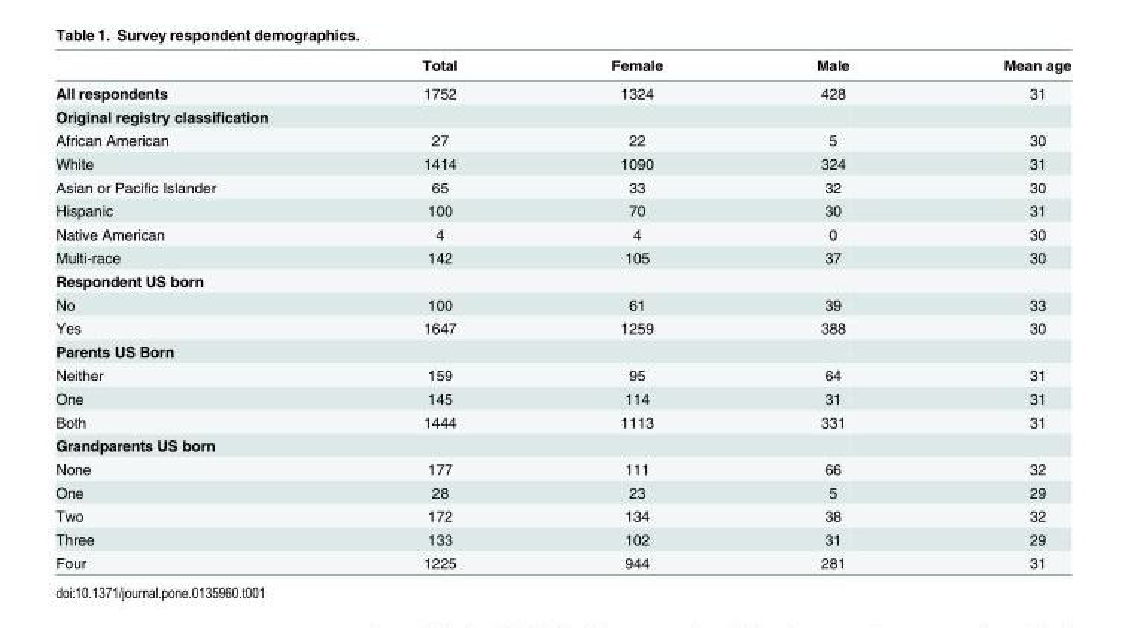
<table><thead><tr><td></td><td>Total</td><td>Female</td><td>Male</td><td>Mean age</td></tr></thead><tbody><tr><td>All respondents</td><td>1752</td><td>1324</td><td>428</td><td>31</td></tr><tr><td colspan="5">Original registry classification</td></tr><tr><td>African American</td><td>27</td><td>22</td><td>5</td><td>30</td></tr><tr><td>White</td><td>1414</td><td>1090</td><td>324</td><td>31</td></tr><tr><td>Asian or Pacific Islander</td><td>65</td><td>33</td><td>32</td><td>30</td></tr><tr><td>Hispanic</td><td>100</td><td>70</td><td>30</td><td>31</td></tr><tr><td>Native American</td><td>4</td><td>4</td><td>0</td><td>30</td></tr><tr><td>Multi-race</td><td>142</td><td>105</td><td>37</td><td>30</td></tr><tr><td colspan="5">Respondent US born</td></tr><tr><td>No</td><td>100</td><td>61</td><td>39</td><td>33</td></tr><tr><td>Yes</td><td>1647</td><td>1259</td><td>388</td><td>30</td></tr><tr><td colspan="5">Parents US Born</td></tr><tr><td>Neither</td><td>159</td><td>95</td><td>64</td><td>31</td></tr><tr><td>One</td><td>145</td><td>114</td><td>31</td><td>31</td></tr><tr><td>Both</td><td>1444</td><td>1113</td><td>331</td><td>31</td></tr><tr><td colspan="5">Grandparents US born</td></tr><tr><td>None</td><td>177</td><td>111</td><td>66</td><td>32</td></tr><tr><td>One</td><td>28</td><td>23</td><td>5</td><td>29</td></tr><tr><td>Two</td><td>172</td><td>134</td><td>38</td><td>32</td></tr><tr><td>Three</td><td>133</td><td>102</td><td>31</td><td>29</td></tr><tr><td>Four</td><td>1225</td><td>944</td><td>281</td><td>31</td></tr></tbody></table>